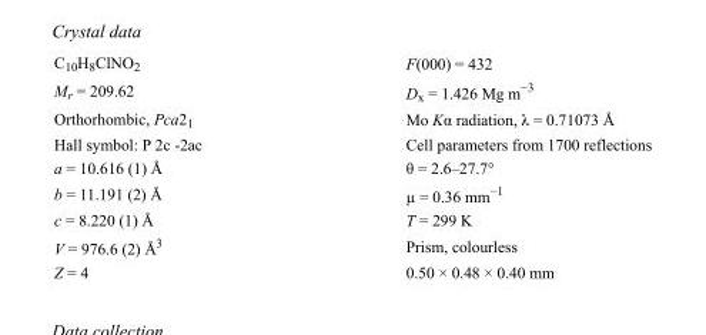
<table><tbody><tr><td>C<sub>10</sub>H<sub>8</sub>ClNO<sub>2</sub></td><td>F(000) = 432</td></tr><tr><td>M<sub>r</sub> = 209.62</td><td>D<sub>x</sub> = 1.426 Mg m<sup>−3</sup></td></tr><tr><td>Orthorhombic, Pca2<sub>1</sub></td><td>Mo Kα radiation, λ = 0.71073 Å</td></tr><tr><td>Hall symbol: P 2c -2ac</td><td>Cell parameters from 1700 reflections</td></tr><tr><td>a = 10.616 (1) Å</td><td>θ = 2.6–27.7°</td></tr><tr><td>b = 11.191 (2) Å</td><td>µ = 0.36 mm<sup>−1</sup></td></tr><tr><td>c = 8.220 (1) Å</td><td>T = 299 K</td></tr><tr><td>V = 976.6 (2) Å<sup>3</sup></td><td>Prism, colourless</td></tr><tr><td>Z = 4</td><td>0.50 × 0.48 × 0.40 mm</td></tr></tbody></table>